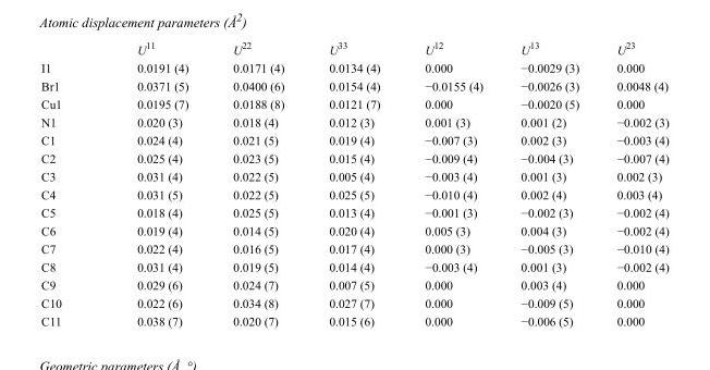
<table><thead><tr><td></td><td>U<sup>11</sup></td><td>U<sup>22</sup></td><td>U<sup>33</sup></td><td>U<sup>12</sup></td><td>U<sup>13</sup></td><td>U<sup>23</sup></td></tr></thead><tbody><tr><td>I1</td><td>0.0191 (4)</td><td>0.0171 (4)</td><td>0.0134 (4)</td><td>0.000</td><td>−0.0029 (3)</td><td>0.000</td></tr><tr><td>Br1</td><td>0.0371 (5)</td><td>0.0400 (6)</td><td>0.0154 (4)</td><td>−0.0155 (4)</td><td>−0.0026 (3)</td><td>0.0048 (4)</td></tr><tr><td>Cu1</td><td>0.0195 (7)</td><td>0.0188 (8)</td><td>0.0121 (7)</td><td>0.000</td><td>−0.0020 (5)</td><td>0.000</td></tr><tr><td>N1</td><td>0.020 (3)</td><td>0.018 (4)</td><td>0.012 (3)</td><td>0.001 (3)</td><td>0.001 (2)</td><td>−0.002 (3)</td></tr><tr><td>C1</td><td>0.024 (4)</td><td>0.021 (5)</td><td>0.019 (4)</td><td>−0.007 (3)</td><td>0.002 (3)</td><td>−0.003 (4)</td></tr><tr><td>C2</td><td>0.025 (4)</td><td>0.023 (5)</td><td>0.015 (4)</td><td>−0.009 (4)</td><td>−0.004 (3)</td><td>−0.007 (4)</td></tr><tr><td>C3</td><td>0.031 (4)</td><td>0.022 (5)</td><td>0.005 (4)</td><td>−0.003 (4)</td><td>0.001 (3)</td><td>0.002 (3)</td></tr><tr><td>C4</td><td>0.031 (5)</td><td>0.022 (5)</td><td>0.025 (5)</td><td>−0.010 (4)</td><td>0.002 (4)</td><td>0.003 (4)</td></tr><tr><td>C5</td><td>0.018 (4)</td><td>0.025 (5)</td><td>0.013 (4)</td><td>−0.001 (3)</td><td>−0.002 (3)</td><td>−0.002 (4)</td></tr><tr><td>C6</td><td>0.019 (4)</td><td>0.014 (5)</td><td>0.020 (4)</td><td>0.005 (3)</td><td>0.004 (3)</td><td>−0.002 (4)</td></tr><tr><td>C7</td><td>0.022 (4)</td><td>0.016 (5)</td><td>0.017 (4)</td><td>0.000 (3)</td><td>−0.005 (3)</td><td>−0.010 (4)</td></tr><tr><td>C8</td><td>0.031 (4)</td><td>0.019 (5)</td><td>0.014 (4)</td><td>−0.003 (4)</td><td>0.001 (3)</td><td>−0.002 (4)</td></tr><tr><td>C9</td><td>0.029 (6)</td><td>0.024 (7)</td><td>0.007 (5)</td><td>0.000</td><td>0.003 (4)</td><td>0.000</td></tr><tr><td>C10</td><td>0.022 (6)</td><td>0.034 (8)</td><td>0.027 (7)</td><td>0.000</td><td>−0.009 (5)</td><td>0.000</td></tr><tr><td>C11</td><td>0.038 (7)</td><td>0.020 (7)</td><td>0.015 (6)</td><td>0.000</td><td>−0.006 (5)</td><td>0.000</td></tr></tbody></table>